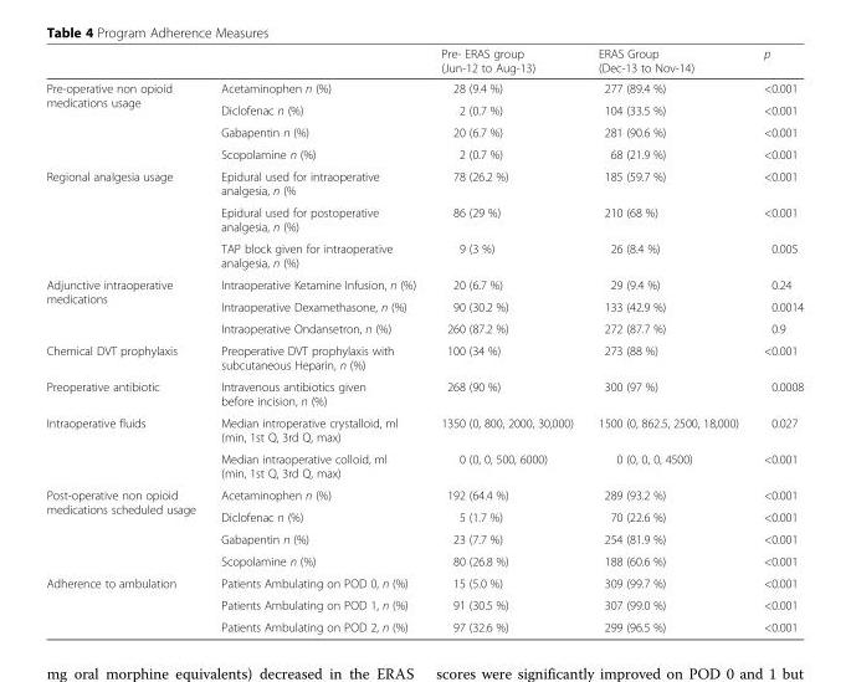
<table><thead><tr><td></td><td></td><td>Pre- ERAS group (Jun-12 to Aug-13)</td><td>ERAS Group (Dec-13 to Nov-14)</td><td>p</td></tr></thead><tbody><tr><td rowspan="4">Pre-operative non opioid medications usage</td><td>Acetaminophen n (%)</td><td>28 (9.4 %)</td><td>277 (89.4 %)</td><td>&lt;0.001</td></tr><tr><td>Diclofenac n (%)</td><td>2 (0.7 %)</td><td>104 (33.5 %)</td><td>&lt;0.001</td></tr><tr><td>Gabapentin n (%)</td><td>20 (6.7 %)</td><td>281 (90.6 %)</td><td>&lt;0.001</td></tr><tr><td>Scopolamine n (%)</td><td>2 (0.7 %)</td><td>68 (21.9 %)</td><td>&lt;0.001</td></tr><tr><td rowspan="3">Regional analgesia usage</td><td>Epidural used for intraoperative analgesia, n (%</td><td>78 (26.2 %)</td><td>185 (59.7 %)</td><td>&lt;0.001</td></tr><tr><td>Epidural used for postoperative analgesia, n (%)</td><td>86 (29 %)</td><td>210 (68 %)</td><td>&lt;0.001</td></tr><tr><td>TAP block given for intraoperative analgesia, n (%)</td><td>9 (3 %)</td><td>26 (8.4 %)</td><td>0.005</td></tr><tr><td rowspan="3">Adjunctive intraoperative medications</td><td>Intraoperative Ketamine Infusion, n (%)</td><td>20 (6.7 %)</td><td>29 (9.4 %)</td><td>0.24</td></tr><tr><td>Intraoperative Dexamethasone, n (%)</td><td>90 (30.2 %)</td><td>133 (42.9 %)</td><td>0.0014</td></tr><tr><td>Intraoperative Ondansetron, n (%)</td><td>260 (87.2 %)</td><td>272 (87.7 %)</td><td>0.9</td></tr><tr><td>Chemical DVT prophylaxis</td><td>Preoperative DVT prophylaxis with subcutaneous Heparin, n (%)</td><td>100 (34 %)</td><td>273 (88 %)</td><td>&lt;0.001</td></tr><tr><td>Preoperative antibiotic</td><td>Intravenous antibiotics given before incision, n (%)</td><td>268 (90 %)</td><td>300 (97 %)</td><td>0.0008</td></tr><tr><td rowspan="2">Intraoperative fluids</td><td>Median introperative crystalloid, ml (min, 1st Q, 3rd Q, max)</td><td>1350 (0, 800, 2000, 30,000)</td><td>1500 (0, 862.5, 2500, 18,000)</td><td>0.027</td></tr><tr><td>Median intraoperative colloid, ml (min, 1st Q, 3rd Q, max)</td><td>0 (0, 0, 500, 6000)</td><td>0 (0, 0, 0, 4500)</td><td>&lt;0.001</td></tr><tr><td rowspan="4">Post-operative non opioid medications scheduled usage</td><td>Acetaminophen n (%)</td><td>192 (64.4 %)</td><td>289 (93.2 %)</td><td>&lt;0.001</td></tr><tr><td>Diclofenac n (%)</td><td>5 (1.7 %)</td><td>70 (22.6 %)</td><td>&lt;0.001</td></tr><tr><td>Gabapentin n (%)</td><td>23 (7.7 %)</td><td>254 (81.9 %)</td><td>&lt;0.001</td></tr><tr><td>Scopolamine n (%)</td><td>80 (26.8 %)</td><td>188 (60.6 %)</td><td>&lt;0.001</td></tr><tr><td rowspan="3">Adherence to ambulation</td><td>Patients Ambulating on POD 0, n (%)</td><td>15 (5.0 %)</td><td>309 (99.7 %)</td><td>&lt;0.001</td></tr><tr><td>Patients Ambulating on POD 1, n (%)</td><td>91 (30.5 %)</td><td>307 (99.0 %)</td><td>&lt;0.001</td></tr><tr><td>Patients Ambulating on POD 2, n (%)</td><td>97 (32.6 %)</td><td>299 (96.5 %)</td><td>&lt;0.001</td></tr></tbody></table>